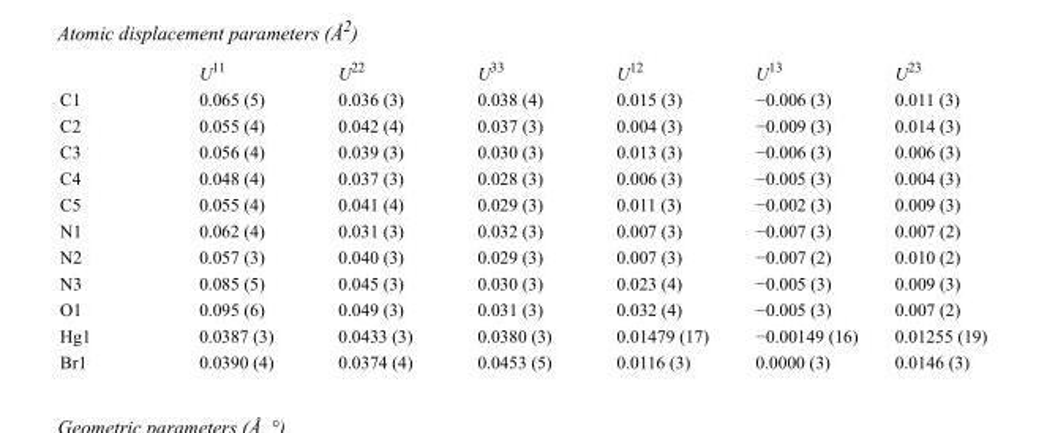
<table><thead><tr><td></td><td>U<sup>11</sup></td><td>U<sup>22</sup></td><td>U<sup>33</sup></td><td>U<sup>12</sup></td><td>U<sup>13</sup></td><td>U<sup>23</sup></td></tr></thead><tbody><tr><td>C1</td><td>0.065 (5)</td><td>0.036 (3)</td><td>0.038 (4)</td><td>0.015 (3)</td><td>−0.006 (3)</td><td>0.011 (3)</td></tr><tr><td>C2</td><td>0.055 (4)</td><td>0.042 (4)</td><td>0.037 (3)</td><td>0.004 (3)</td><td>−0.009 (3)</td><td>0.014 (3)</td></tr><tr><td>C3</td><td>0.056 (4)</td><td>0.039 (3)</td><td>0.030 (3)</td><td>0.013 (3)</td><td>−0.006 (3)</td><td>0.006 (3)</td></tr><tr><td>C4</td><td>0.048 (4)</td><td>0.037 (3)</td><td>0.028 (3)</td><td>0.006 (3)</td><td>−0.005 (3)</td><td>0.004 (3)</td></tr><tr><td>C5</td><td>0.055 (4)</td><td>0.041 (4)</td><td>0.029 (3)</td><td>0.011 (3)</td><td>−0.002 (3)</td><td>0.009 (3)</td></tr><tr><td>N1</td><td>0.062 (4)</td><td>0.031 (3)</td><td>0.032 (3)</td><td>0.007 (3)</td><td>−0.007 (3)</td><td>0.007 (2)</td></tr><tr><td>N2</td><td>0.057 (3)</td><td>0.040 (3)</td><td>0.029 (3)</td><td>0.007 (3)</td><td>−0.007 (2)</td><td>0.010 (2)</td></tr><tr><td>N3</td><td>0.085 (5)</td><td>0.045 (3)</td><td>0.030 (3)</td><td>0.023 (4)</td><td>−0.005 (3)</td><td>0.009 (3)</td></tr><tr><td>O1</td><td>0.095 (6)</td><td>0.049 (3)</td><td>0.031 (3)</td><td>0.032 (4)</td><td>−0.005 (3)</td><td>0.007 (2)</td></tr><tr><td>Hg1</td><td>0.0387 (3)</td><td>0.0433 (3)</td><td>0.0380 (3)</td><td>0.01479 (17)</td><td>−0.00149 (16)</td><td>0.01255 (19)</td></tr><tr><td>Br1</td><td>0.0390 (4)</td><td>0.0374 (4)</td><td>0.0453 (5)</td><td>0.0116 (3)</td><td>0.0000 (3)</td><td>0.0146 (3)</td></tr></tbody></table>